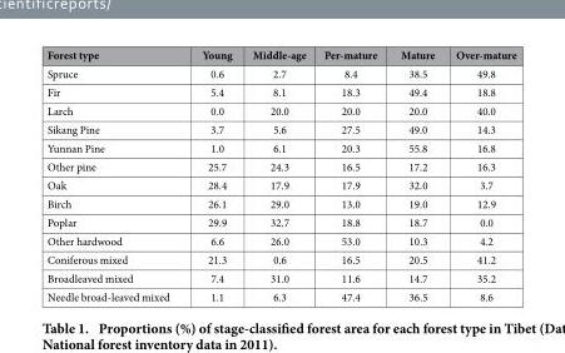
<table><thead><tr><td>Forest type</td><td>Young</td><td>Middle-age</td><td>Per-mature</td><td>Mature</td><td>Over-mature</td></tr></thead><tbody><tr><td>Spruce</td><td>0.6</td><td>2.7</td><td>8.4</td><td>38.5</td><td>49.8</td></tr><tr><td>Fir</td><td>5.4</td><td>8.1</td><td>18.3</td><td>49.4</td><td>18.8</td></tr><tr><td>Larch</td><td>0.0</td><td>20.0</td><td>20.0</td><td>20.0</td><td>40.0</td></tr><tr><td>Sikang Pine</td><td>3.7</td><td>5.6</td><td>27.5</td><td>49.0</td><td>14.3</td></tr><tr><td>Yunnan Pine</td><td>1.0</td><td>6.1</td><td>20.3</td><td>55.8</td><td>16.8</td></tr><tr><td>Other pine</td><td>25.7</td><td>24.3</td><td>16.5</td><td>17.2</td><td>16.3</td></tr><tr><td>Oak</td><td>28.4</td><td>17.9</td><td>17.9</td><td>32.0</td><td>3.7</td></tr><tr><td>Birch</td><td>26.1</td><td>29.0</td><td>13.0</td><td>19.0</td><td>12.9</td></tr><tr><td>Poplar</td><td>29.9</td><td>32.7</td><td>18.8</td><td>18.7</td><td>0.0</td></tr><tr><td>Other hardwood</td><td>6.6</td><td>26.0</td><td>53.0</td><td>10.3</td><td>4.2</td></tr><tr><td>Coniferous mixed</td><td>21.3</td><td>0.6</td><td>16.5</td><td>20.5</td><td>41.2</td></tr><tr><td>Broadleaved mixed</td><td>7.4</td><td>31.0</td><td>11.6</td><td>14.7</td><td>35.2</td></tr><tr><td>Needle broad-leaved mixed</td><td>1.1</td><td>6.3</td><td>47.4</td><td>36.5</td><td>8.6</td></tr></tbody></table>